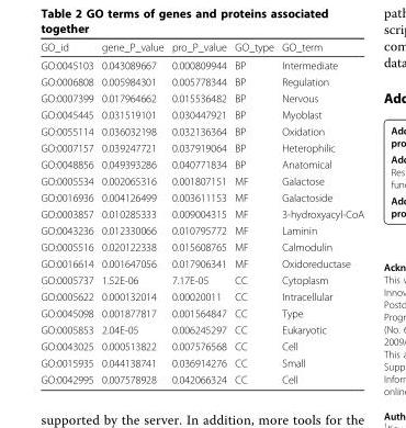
<table><thead><tr><td>GO_id</td><td>gene_P_value</td><td>pro_P_value</td><td>GO_type</td><td>GO_term</td></tr></thead><tbody><tr><td>GO:0045103</td><td>0.043089667</td><td>0.000809944</td><td>BP</td><td>Intermediate</td></tr><tr><td>GO:0006808</td><td>0.005984301</td><td>0.005778344</td><td>BP</td><td>Regulation</td></tr><tr><td>GO:0007399</td><td>0.017964662</td><td>0.015536482</td><td>BP</td><td>Nervous</td></tr><tr><td>GO:0045445</td><td>0.031519101</td><td>0.030447921</td><td>BP</td><td>Myoblast</td></tr><tr><td>GO:0055114</td><td>0.036032198</td><td>0.032136364</td><td>BP</td><td>Oxidation</td></tr><tr><td>GO:0007157</td><td>0.039247721</td><td>0.037919064</td><td>BP</td><td>Heterophilic</td></tr><tr><td>GO:0048856</td><td>0.049393286</td><td>0.040771834</td><td>BP</td><td>Anatomical</td></tr><tr><td>GO:0005534</td><td>0.002065316</td><td>0.001807151</td><td>MF</td><td>Galactose</td></tr><tr><td>GO:0016936</td><td>0.004126499</td><td>0.003611153</td><td>MF</td><td>Galactoside</td></tr><tr><td>GO:0003857</td><td>0.010285333</td><td>0.009004315</td><td>MF</td><td>3-hydroxyacyl-CoA</td></tr><tr><td>GO:0043236</td><td>0.012330066</td><td>0.010795772</td><td>MF</td><td>Laminin</td></tr><tr><td>GO:0005516</td><td>0.020122338</td><td>0.015608765</td><td>MF</td><td>Calmodulin</td></tr><tr><td>GO:0016614</td><td>0.001647056</td><td>0.017906341</td><td>MF</td><td>Oxidoreductase</td></tr><tr><td>GO:0005737</td><td>1.52E-06</td><td>7.17E-05</td><td>CC</td><td>Cytoplasm</td></tr><tr><td>GO:0005622</td><td>0.000132014</td><td>0.00020011</td><td>CC</td><td>Intracellular</td></tr><tr><td>GO:0045098</td><td>0.001877817</td><td>0.001564847</td><td>CC</td><td>Type</td></tr><tr><td>GO:0005853</td><td>2.04E-05</td><td>0.006245297</td><td>CC</td><td>Eukaryotic</td></tr><tr><td>GO:0043025</td><td>0.000513822</td><td>0.007576568</td><td>CC</td><td>Cell</td></tr><tr><td>GO:0015935</td><td>0.044138741</td><td>0.036914276</td><td>CC</td><td>Small</td></tr><tr><td>GO:0042995</td><td>0.007578928</td><td>0.042066324</td><td>CC</td><td>Cell</td></tr></tbody></table>